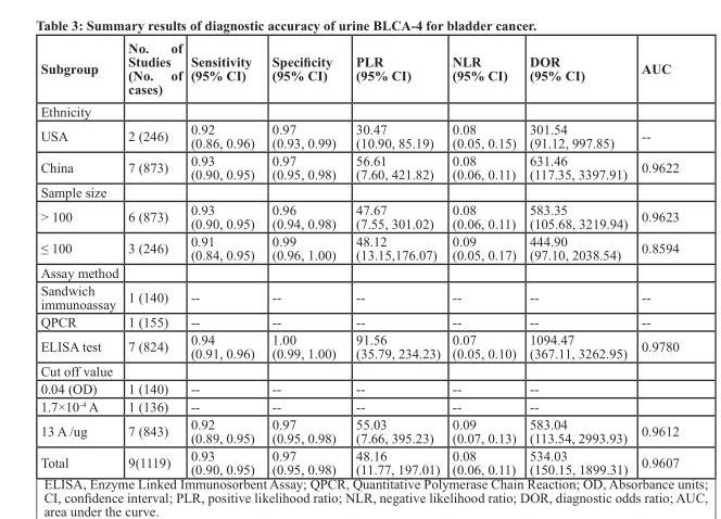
<table><thead><tr><td>Subgroup</td><td>No. of Studies (No. of cases)</td><td>Sensitivity (95% CI)</td><td>Specificity (95% CI)</td><td>PLR (95% CI)</td><td>NLR (95% CI)</td><td>DOR (95% CI)</td><td>AUC</td></tr></thead><tbody><tr><td colspan="8">Ethnicity</td></tr><tr><td>USA</td><td>2 (246)</td><td>0.92 (0.86, 0.96)</td><td>0.97 (0.93, 0.99)</td><td>30.47 (10.90, 85.19)</td><td>0.08 (0.05, 0.15)</td><td>301.54 (91.12, 997.85)</td><td>--</td></tr><tr><td>China</td><td>7 (873)</td><td>0.93 (0.90, 0.95)</td><td>0.97 (0.95, 0.98)</td><td>56.61 (7.60, 421.82)</td><td>0.08 (0.06, 0.11)</td><td>631.46 (117.35, 3397.91)</td><td>0.9622</td></tr><tr><td colspan="8">Sample size</td></tr><tr><td>&gt; 100</td><td>6 (873)</td><td>0.93 (0.90, 0.95)</td><td>0.96 (0.94, 0.98)</td><td>47.67 (7.55, 301.02)</td><td>0.08 (0.06, 0.11)</td><td>583.35 (105.68, 3219.94)</td><td>0.9623</td></tr><tr><td>≤ 100</td><td>3 (246)</td><td>0.91 (0.84, 0.95)</td><td>0.99 (0.96, 1.00)</td><td>48.12 (13.15,176.07)</td><td>0.09 (0.05, 0.17)</td><td>444.90 (97.10, 2038.54)</td><td>0.8594</td></tr><tr><td colspan="8">Assay method</td></tr><tr><td>Sandwich immunoassay</td><td>1 (140)</td><td>--</td><td>--</td><td>--</td><td>--</td><td>--</td><td>--</td></tr><tr><td>QPCR</td><td>1 (155)</td><td>--</td><td>--</td><td>--</td><td>--</td><td>--</td><td>--</td></tr><tr><td>ELISA test</td><td>7 (824)</td><td>0.94 (0.91, 0.96)</td><td>1.00 (0.99, 1.00)</td><td>91.56 (35.79, 234.23)</td><td>0.07 (0.05, 0.10)</td><td>1094.47 (367.11, 3262.95)</td><td>0.9780</td></tr><tr><td colspan="8">Cut off value</td></tr><tr><td>0.04 (OD)</td><td>1 (140)</td><td>--</td><td>--</td><td>--</td><td>--</td><td>--</td><td></td></tr><tr><td>1.7×10<sup>-4</sup> A</td><td>1 (136)</td><td>--</td><td>--</td><td>--</td><td>--</td><td>--</td><td></td></tr><tr><td>13 A /ug</td><td>7 (843)</td><td>0.92 (0.89, 0.95)</td><td>0.97 (0.95, 0.98)</td><td>55.03 (7.66, 395.23)</td><td>0.09 (0.07, 0.13)</td><td>583.04 (113.54, 2993.93)</td><td>0.9612</td></tr><tr><td>Total</td><td>9(1119)</td><td>0.93 (0.90, 0.95)</td><td>0.97 (0.95, 0.98)</td><td>48.16 (11.77, 197.01)</td><td>0.08 (0.06, 0.11)</td><td>534.03 (150.15, 1899.31)</td><td>0.9607</td></tr></tbody></table>